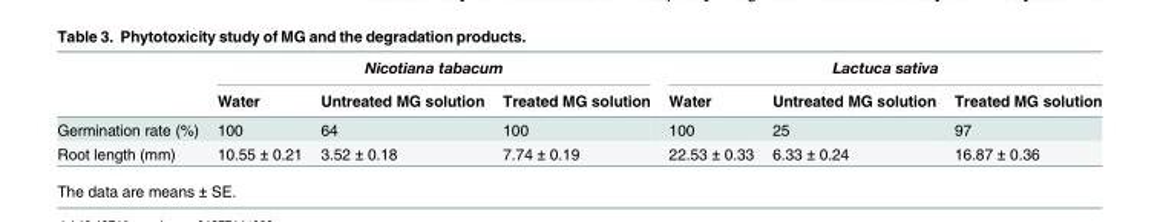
<table><thead><tr><td rowspan="2"></td><td colspan="3">Nicotiana tabacum</td><td colspan="3">Lactuca sativa</td></tr><tr><td>Water</td><td>Untreated MG solution</td><td>Treated MG solution</td><td>Water</td><td>Untreated MG solution</td><td>Treated MG solution</td></tr></thead><tbody><tr><td>Germination rate (%)</td><td>100</td><td>64</td><td>100</td><td>100</td><td>25</td><td>97</td></tr><tr><td>Root length (mm)</td><td>10.55 ± 0.21</td><td>3.52 ± 0.18</td><td>7.74 ± 0.19</td><td>22.53 ± 0.33</td><td>6.33 ± 0.24</td><td>16.87 ± 0.36</td></tr></tbody></table>